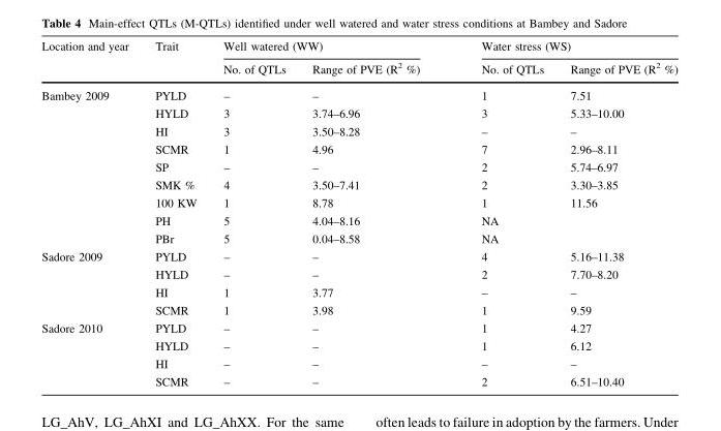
<table><thead><tr><td rowspan="2">Location and year</td><td rowspan="2">Trait</td><td colspan="2">Well watered (WW)</td><td colspan="2">Water stress (WS)</td></tr><tr><td>No. of QTLs</td><td>Range of PVE (R<sup>2</sup> %)</td><td>No. of QTLs</td><td>Range of PVE (R<sup>2</sup> %)</td></tr></thead><tbody><tr><td rowspan="9">Bambey 2009</td><td>PYLD</td><td>–</td><td>–</td><td>1</td><td>7.51</td></tr><tr><td>HYLD</td><td>3</td><td>3.74–6.96</td><td>3</td><td>5.33–10.00</td></tr><tr><td>HI</td><td>3</td><td>3.50–8.28</td><td>–</td><td>–</td></tr><tr><td>SCMR</td><td>1</td><td>4.96</td><td>7</td><td>2.96–8.11</td></tr><tr><td>SP</td><td>–</td><td>–</td><td>2</td><td>5.74–6.97</td></tr><tr><td>SMK %</td><td>4</td><td>3.50–7.41</td><td>2</td><td>3.30–3.85</td></tr><tr><td>100 KW</td><td>1</td><td>8.78</td><td>1</td><td>11.56</td></tr><tr><td>PH</td><td>5</td><td>4.04–8.16</td><td>NA</td><td></td></tr><tr><td>PBr</td><td>5</td><td>0.04–8.58</td><td>NA</td><td></td></tr><tr><td rowspan="4">Sadore 2009</td><td>PYLD</td><td>–</td><td>–</td><td>4</td><td>5.16–11.38</td></tr><tr><td>HYLD</td><td>–</td><td>–</td><td>2</td><td>7.70–8.20</td></tr><tr><td>HI</td><td>1</td><td>3.77</td><td>–</td><td>–</td></tr><tr><td>SCMR</td><td>1</td><td>3.98</td><td>1</td><td>9.59</td></tr><tr><td rowspan="4">Sadore 2010</td><td>PYLD</td><td>–</td><td>–</td><td>1</td><td>4.27</td></tr><tr><td>HYLD</td><td>–</td><td>–</td><td>1</td><td>6.12</td></tr><tr><td>HI</td><td>–</td><td>–</td><td>–</td><td>–</td></tr><tr><td>SCMR</td><td>–</td><td>–</td><td>2</td><td>6.51–10.40</td></tr></tbody></table>